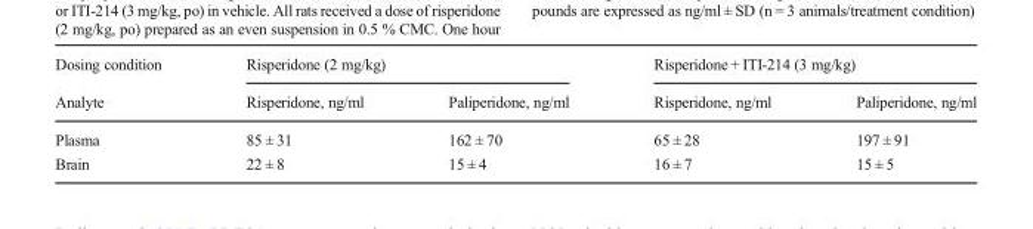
<table><thead><tr><td rowspan="2">Dosing condition Analyte</td><td colspan="2">Risperidone (2 mg/kg)</td><td colspan="2">Risperidone + ITI-214 (3 mg/kg)</td></tr><tr><td>Risperidone, ng/ml</td><td>Paliperidone, ng/ml</td><td>Risperidone, ng/ml</td><td>Paliperidone, ng/ml</td></tr></thead><tbody><tr><td>Plasma</td><td>85 ± 31</td><td>162 ± 70</td><td>65 ± 28</td><td>197 ± 91</td></tr><tr><td>Brain</td><td>22 ± 8</td><td>15 ± 4</td><td>16 ± 7</td><td>15 ± 5</td></tr></tbody></table>